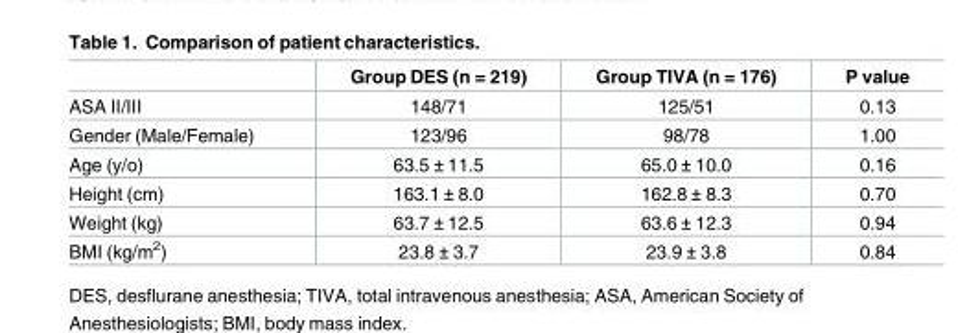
<table><thead><tr><td></td><td>Group DES (n = 219)</td><td>Group TIVA (n = 176)</td><td>P value</td></tr></thead><tbody><tr><td>ASA II/III</td><td>148/71</td><td>125/51</td><td>0.13</td></tr><tr><td>Gender (Male/Female)</td><td>123/96</td><td>98/78</td><td>1.00</td></tr><tr><td>Age (y/o)</td><td>63.5 ± 11.5</td><td>65.0 ± 10.0</td><td>0.16</td></tr><tr><td>Height (cm)</td><td>163.1 ± 8.0</td><td>162.8 ± 8.3</td><td>0.70</td></tr><tr><td>Weight (kg)</td><td>63.7 ± 12.5</td><td>63.6 ± 12.3</td><td>0.94</td></tr><tr><td>BMI (kg/m<sup>2</sup>)</td><td>23.8 ± 3.7</td><td>23.9 ± 3.8</td><td>0.84</td></tr></tbody></table>